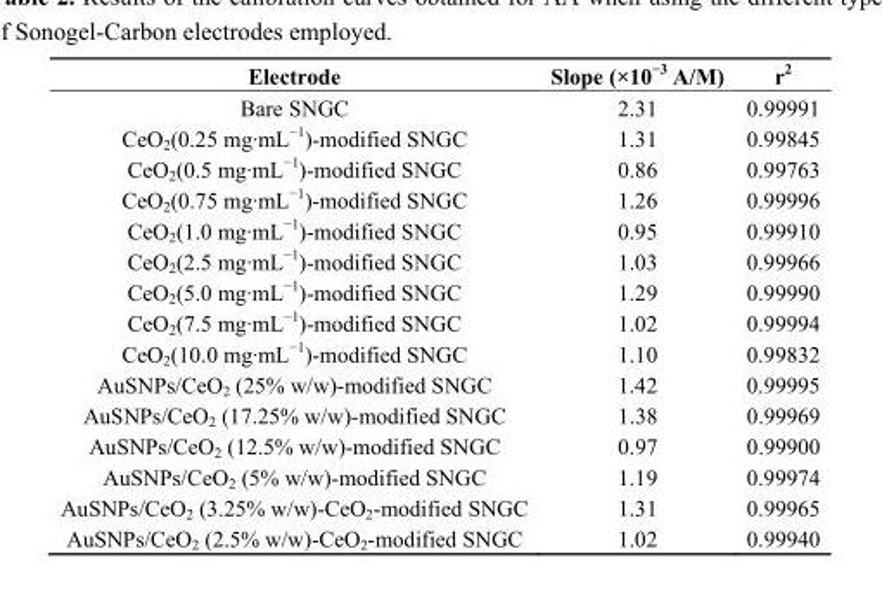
<table><thead><tr><td>Electrode</td><td>Slope (×10<sup>−3</sup> A/M)</td><td>r<sup>2</sup></td></tr></thead><tbody><tr><td>Bare SNGC</td><td>2.31</td><td>0.99991</td></tr><tr><td>CeO<sub>2</sub>(0.25 mg·mL<sup>−1</sup>)-modified SNGC</td><td>1.31</td><td>0.99845</td></tr><tr><td>CeO<sub>2</sub>(0.5 mg·mL<sup>−1</sup>)-modified SNGC</td><td>0.86</td><td>0.99763</td></tr><tr><td>CeO<sub>2</sub>(0.75 mg·mL<sup>−1</sup>)-modified SNGC</td><td>1.26</td><td>0.99996</td></tr><tr><td>CeO<sub>2</sub>(1.0 mg·mL<sup>−1</sup>)-modified SNGC</td><td>0.95</td><td>0.99910</td></tr><tr><td>CeO<sub>2</sub>(2.5 mg·mL<sup>−1</sup>)-modified SNGC</td><td>1.03</td><td>0.99966</td></tr><tr><td>CeO<sub>2</sub>(5.0 mg·mL<sup>−1</sup>)-modified SNGC</td><td>1.29</td><td>0.99990</td></tr><tr><td>CeO<sub>2</sub>(7.5 mg·mL<sup>−1</sup>)-modified SNGC</td><td>1.02</td><td>0.99994</td></tr><tr><td>CeO<sub>2</sub>(10.0 mg·mL<sup>−1</sup>)-modified SNGC</td><td>1.10</td><td>0.99832</td></tr><tr><td>AuSNPs/CeO<sub>2</sub> (25% w/w)-modified SNGC</td><td>1.42</td><td>0.99995</td></tr><tr><td>AuSNPs/CeO<sub>2</sub> (17.25% w/w)-modified SNGC</td><td>1.38</td><td>0.99969</td></tr><tr><td>AuSNPs/CeO<sub>2</sub> (12.5% w/w)-modified SNGC</td><td>0.97</td><td>0.99900</td></tr><tr><td>AuSNPs/CeO<sub>2</sub> (5% w/w)-modified SNGC</td><td>1.19</td><td>0.99974</td></tr><tr><td>AuSNPs/CeO<sub>2</sub> (3.25% w/w)-CeO<sub>2</sub>-modified SNGC</td><td>1.31</td><td>0.99965</td></tr><tr><td>AuSNPs/CeO<sub>2</sub> (2.5% w/w)-CeO<sub>2</sub>-modified SNGC</td><td>1.02</td><td>0.99940</td></tr></tbody></table>